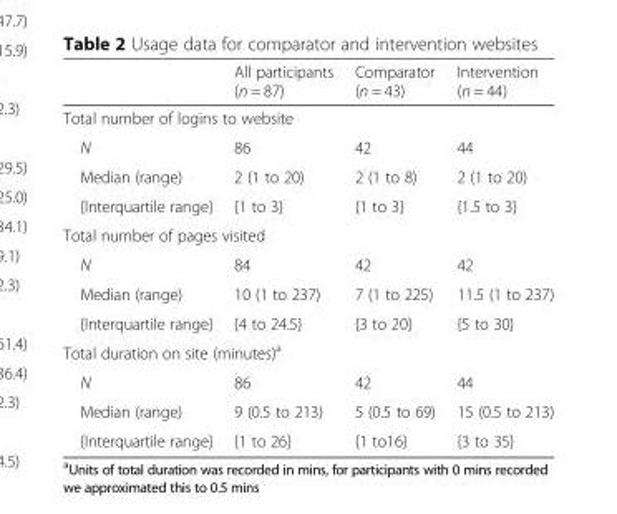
<table><thead><tr><td></td><td>All participants (n = 87)</td><td>Comparator (n = 43)</td><td>Intervention (n = 44)</td></tr></thead><tbody><tr><td colspan="4">Total number of logins to website</td></tr><tr><td>N</td><td>86</td><td>42</td><td>44</td></tr><tr><td>Median (range)</td><td>2 (1 to 20)</td><td>2 (1 to 8)</td><td>2 (1 to 20)</td></tr><tr><td>{Interquartile range}</td><td>{1 to 3}</td><td>{1 to 3}</td><td>{1.5 to 3}</td></tr><tr><td colspan="4">Total number of pages visited</td></tr><tr><td>N</td><td>84</td><td>42</td><td>42</td></tr><tr><td>Median (range)</td><td>10 (1 to 237)</td><td>7 (1 to 225)</td><td>11.5 (1 to 237)</td></tr><tr><td>{Interquartile range}</td><td>{4 to 24.5}</td><td>{3 to 20}</td><td>{5 to 30}</td></tr><tr><td colspan="4">Total duration on site (minutes)<sup>a</sup></td></tr><tr><td>N</td><td>86</td><td>42</td><td>44</td></tr><tr><td>Median (range)</td><td>9 (0.5 to 213)</td><td>5 (0.5 to 69)</td><td>15 (0.5 to 213)</td></tr><tr><td>{Interquartile range}</td><td>{1 to 26}</td><td>{1 to16}</td><td>{3 to 35}</td></tr></tbody></table>